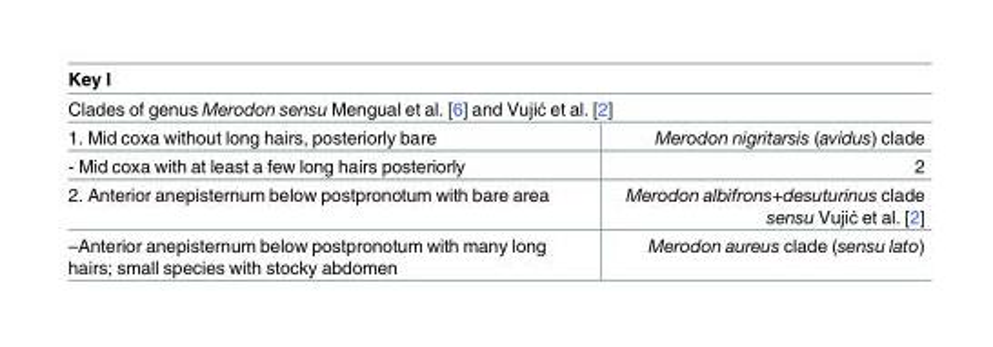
<table><thead><tr><td rowspan="2" colspan="2">Key I Clades of genus Merodon sensu Mengual et al. [6] and Vujić et al. [2]</td></tr><tr></tr><tr><td>1. Mid coxa without long hairs, posteriorly bare</td><td>Merodon nigritarsis (avidus) clade</td></tr></thead><tbody><tr><td>- Mid coxa with at least a few long hairs posteriorly</td><td>2</td></tr><tr><td>2. Anterior anepisternum below postpronotum with bare area</td><td>Merodon albifrons+desuturinus clade sensu Vujić et al. [2]</td></tr><tr><td>–Anterior anepisternum below postpronotum with many long hairs; small species with stocky abdomen</td><td>Merodon aureus clade (sensu lato)</td></tr></tbody></table>